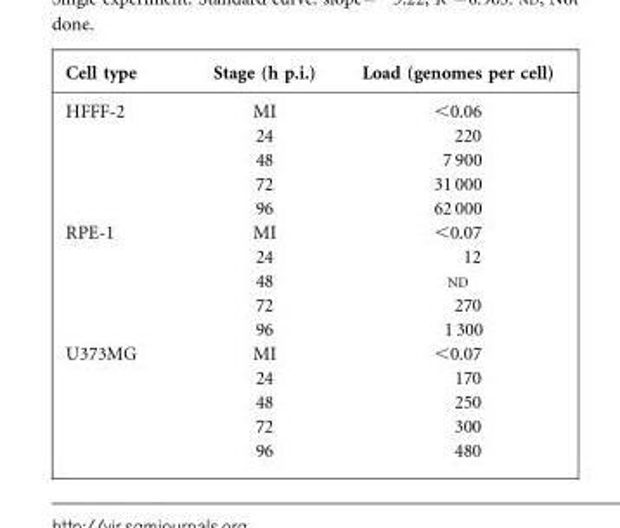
<table><thead><tr><td>Cell type</td><td>Stage (h p.i.)</td><td>Load (genomes per cell)</td></tr></thead><tbody><tr><td rowspan="5">HFFF-2</td><td>MI</td><td>&lt;0.06</td></tr><tr><td>24</td><td>220</td></tr><tr><td>48</td><td>7 900</td></tr><tr><td>72</td><td>31 000</td></tr><tr><td>96</td><td>62 000</td></tr><tr><td rowspan="5">RPE-1</td><td>MI</td><td>&lt;0.07</td></tr><tr><td>24</td><td>12</td></tr><tr><td>48</td><td>ND</td></tr><tr><td>72</td><td>270</td></tr><tr><td>96</td><td>1 300</td></tr><tr><td rowspan="5">U373MG</td><td>MI</td><td>&lt;0.07</td></tr><tr><td>24</td><td>170</td></tr><tr><td>48</td><td>250</td></tr><tr><td>72</td><td>300</td></tr><tr><td>96</td><td>480</td></tr></tbody></table>